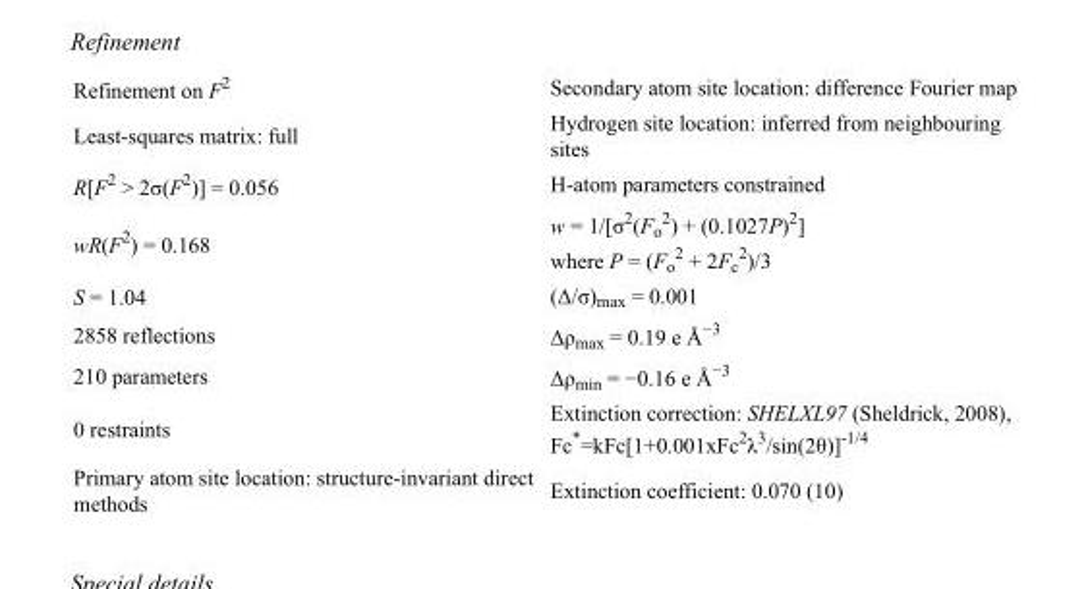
<table><tbody><tr><td>Refinement on F<sup>2</sup></td><td>Secondary atom site location: difference Fourier map</td></tr><tr><td>Least-squares matrix: full</td><td>Hydrogen site location: inferred from neighbouring sites</td></tr><tr><td>R[F<sup>2</sup> &gt; 2σ(F<sup>2</sup>)] = 0.056</td><td>H-atom parameters constrained</td></tr><tr><td>wR(F<sup>2</sup>) = 0.168</td><td>w = 1/[σ<sup>2</sup>(F<sub>o</sub> <sup>2</sup>) + (0.1027P)<sup>2</sup>] where P = (F<sub>o</sub> <sup>2</sup> + 2F<sub>c</sub> <sup>2</sup>)/3</td></tr><tr><td>S = 1.04</td><td>(Δ/σ)<sub>max</sub> = 0.001</td></tr><tr><td>2858 reflections</td><td>Δρ<sub>max</sub> = 0.19 e Å<sup>−3</sup></td></tr><tr><td>210 parameters</td><td>Δρ<sub>min</sub> = −0.16 e Å<sup>−3</sup></td></tr><tr><td>0 restraints</td><td>Extinction correction: SHELXL97 (Sheldrick, 2008), Fc*=kFc[1+0.001xFc<sup>2</sup>λ<sup>3</sup>/sin(2θ)]<sup>-1/4</sup></td></tr><tr><td>Primary atom site location: structure-invariant direct methods</td><td>Extinction coefficient: 0.070 (10)</td></tr></tbody></table>